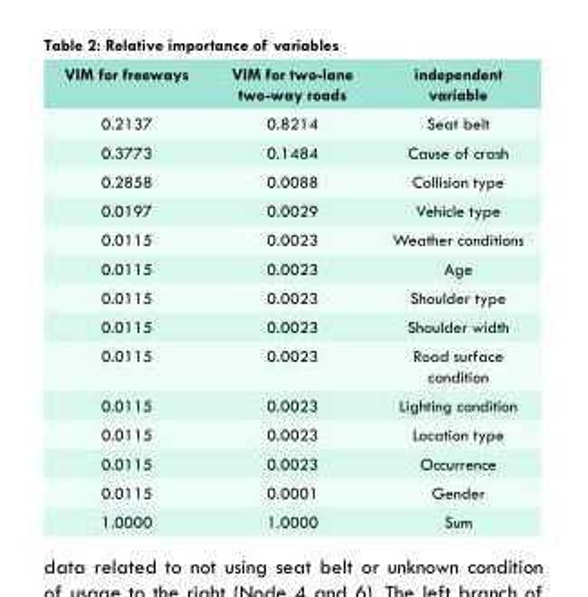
<table><thead><tr><td>VIM for freeways</td><td>VIM for two-lane two-way roads</td><td>independent variable</td></tr></thead><tbody><tr><td>0.2137</td><td>0.8214</td><td>Seat belt</td></tr><tr><td>0.3773</td><td>0.1484</td><td>Cause of crash</td></tr><tr><td>0.2858</td><td>0.0088</td><td>Collision type</td></tr><tr><td>0.0197</td><td>0.0029</td><td>Vehicle type</td></tr><tr><td>0.0115</td><td>0.0023</td><td>Weather conditions</td></tr><tr><td>0.0115</td><td>0.0023</td><td>Age</td></tr><tr><td>0.0115</td><td>0.0023</td><td>Shoulder type</td></tr><tr><td>0.0115</td><td>0.0023</td><td>Shoulder width</td></tr><tr><td>0.0115</td><td>0.0023</td><td>Road surface condition</td></tr><tr><td>0.0115</td><td>0.0023</td><td>Lighting condition</td></tr><tr><td>0.0115</td><td>0.0023</td><td>Location type</td></tr><tr><td>0.0115</td><td>0.0023</td><td>Occurrence</td></tr><tr><td>0.0115</td><td>0.0001</td><td>Gender</td></tr><tr><td>1.0000</td><td>1.0000</td><td>Sum</td></tr></tbody></table>